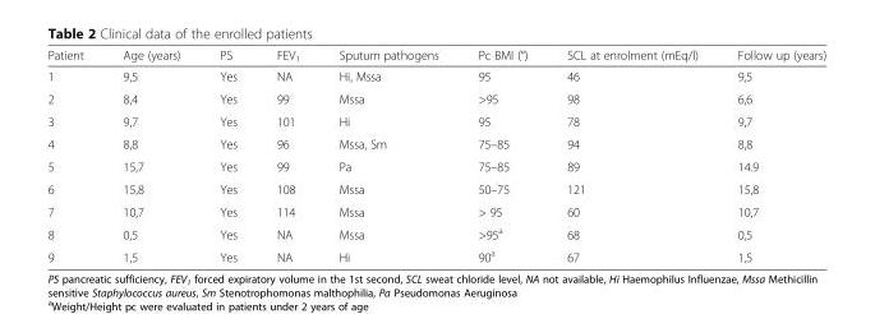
<table><thead><tr><td>Patient</td><td>Age (years)</td><td>PS</td><td>FEV<sub>1</sub></td><td>Sputum pathogens</td><td>Pc BMI (°)</td><td>SCL at enrolment (mEq/l)</td><td>Follow up (years)</td></tr></thead><tbody><tr><td>1</td><td>9,5</td><td>Yes</td><td>NA</td><td>Hi, Mssa</td><td>95</td><td>46</td><td>9,5</td></tr><tr><td>2</td><td>8,4</td><td>Yes</td><td>99</td><td>Mssa</td><td>&gt;95</td><td>98</td><td>6,6</td></tr><tr><td>3</td><td>9,7</td><td>Yes</td><td>101</td><td>Hi</td><td>95</td><td>78</td><td>9,7</td></tr><tr><td>4</td><td>8,8</td><td>Yes</td><td>96</td><td>Mssa, Sm</td><td>75–85</td><td>94</td><td>8,8</td></tr><tr><td>5</td><td>15,7</td><td>Yes</td><td>99</td><td>Pa</td><td>75–85</td><td>89</td><td>14.9</td></tr><tr><td>6</td><td>15,8</td><td>Yes</td><td>108</td><td>Mssa</td><td>50–75</td><td>121</td><td>15,8</td></tr><tr><td>7</td><td>10,7</td><td>Yes</td><td>114</td><td>Mssa</td><td>&gt; 95</td><td>60</td><td>10,7</td></tr><tr><td>8</td><td>0,5</td><td>Yes</td><td>NA</td><td>Mssa</td><td>&gt;95<sup>a</sup></td><td>68</td><td>0,5</td></tr><tr><td>9</td><td>1,5</td><td>Yes</td><td>NA</td><td>Hi</td><td>90<sup>a</sup></td><td>67</td><td>1,5</td></tr></tbody></table>